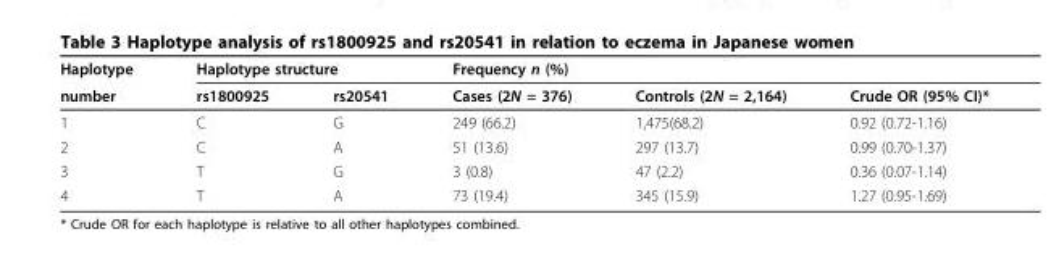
<table><thead><tr><td rowspan="2">Haplotype number</td><td colspan="2">Haplotype structure</td><td colspan="2">Frequency n (%)</td><td rowspan="2">Crude OR (95% CI)*</td></tr><tr><td>rs1800925</td><td>rs20541</td><td>Cases (2N = 376)</td><td>Controls (2N = 2,164)</td></tr></thead><tbody><tr><td>1</td><td>C</td><td>G</td><td>249 (66.2)</td><td>1,475(68.2)</td><td>0.92 (0.72-1.16)</td></tr><tr><td>2</td><td>C</td><td>A</td><td>51 (13.6)</td><td>297 (13.7)</td><td>0.99 (0.70-1.37)</td></tr><tr><td>3</td><td>T</td><td>G</td><td>3 (0.8)</td><td>47 (2.2)</td><td>0.36 (0.07-1.14)</td></tr><tr><td>4</td><td>T</td><td>A</td><td>73 (19.4)</td><td>345 (15.9)</td><td>1.27 (0.95-1.69)</td></tr></tbody></table>